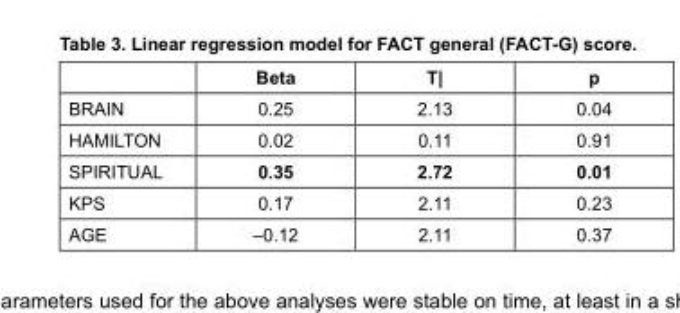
<table><thead><tr><td></td><td>Beta</td><td>T|</td><td>p</td></tr></thead><tbody><tr><td>BRAIN</td><td>0.25</td><td>2.13</td><td>0.04</td></tr><tr><td>HAMILTON</td><td>0.02</td><td>0.11</td><td>0.91</td></tr><tr><td>SPIRITUAL</td><td>0.35</td><td>2.72</td><td>0.01</td></tr><tr><td>KPS</td><td>0.17</td><td>2.11</td><td>0.23</td></tr><tr><td>AGE</td><td>–0.12</td><td>2.11</td><td>0.37</td></tr></tbody></table>